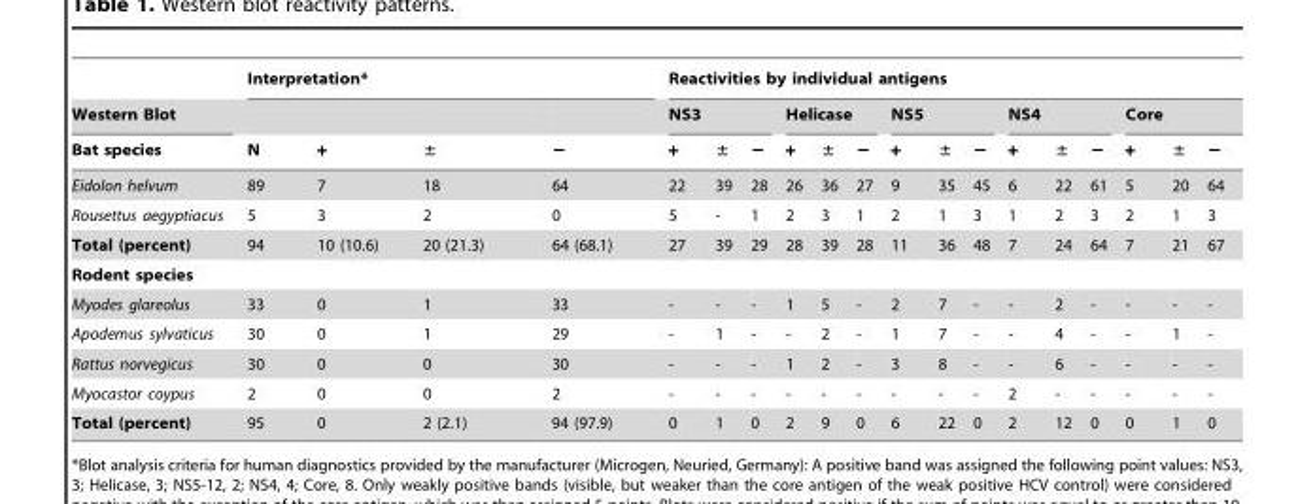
<table><thead><tr><td rowspan="3">Western Blot Bat species</td><td colspan="4">Interpretation*</td><td colspan="15">Reactivities by individual antigens</td></tr><tr><td rowspan="2">N</td><td rowspan="2">+</td><td rowspan="2">±</td><td rowspan="2">−</td><td colspan="3">NS3</td><td colspan="3">Helicase</td><td colspan="3">NS5</td><td colspan="3">NS4</td><td colspan="3">Core</td></tr><tr><td>+</td><td>±</td><td>−</td><td>+</td><td>±</td><td>−</td><td>+</td><td>±</td><td>−</td><td>+</td><td>±</td><td>−</td><td>+</td><td>±</td><td>−</td></tr></thead><tbody><tr><td>Eidolon helvum</td><td>89</td><td>7</td><td>18</td><td>64</td><td>22</td><td>39</td><td>28</td><td>26</td><td>36</td><td>27</td><td>9</td><td>35</td><td>45</td><td>6</td><td>22</td><td>61</td><td>5</td><td>20</td><td>64</td></tr><tr><td>Rousettus aegyptiacus</td><td>5</td><td>3</td><td>2</td><td>0</td><td>5</td><td>-</td><td>1</td><td>2</td><td>3</td><td>1</td><td>2</td><td>1</td><td>3</td><td>1</td><td>2</td><td>3</td><td>2</td><td>1</td><td>3</td></tr><tr><td>Total (percent)</td><td>94</td><td>10 (10.6)</td><td>20 (21.3)</td><td>64 (68.1)</td><td>27</td><td>39</td><td>29</td><td>28</td><td>39</td><td>28</td><td>11</td><td>36</td><td>48</td><td>7</td><td>24</td><td>64</td><td>7</td><td>21</td><td>67</td></tr><tr><td colspan="20">Rodent species</td></tr><tr><td>Myodes glareolus</td><td>33</td><td>0</td><td>1</td><td>33</td><td>-</td><td>-</td><td>-</td><td>1</td><td>5</td><td>-</td><td>2</td><td>7</td><td>-</td><td>-</td><td>2</td><td>-</td><td>-</td><td>-</td><td>-</td></tr><tr><td>Apodemus sylvaticus</td><td>30</td><td>0</td><td>1</td><td>29</td><td>-</td><td>1</td><td>-</td><td>-</td><td>2</td><td>-</td><td>1</td><td>7</td><td>-</td><td>-</td><td>4</td><td>-</td><td>-</td><td>1</td><td>-</td></tr><tr><td>Rattus norvegicus</td><td>30</td><td>0</td><td>0</td><td>30</td><td>-</td><td>-</td><td>-</td><td>1</td><td>2</td><td>-</td><td>3</td><td>8</td><td>-</td><td>-</td><td>6</td><td>-</td><td>-</td><td>-</td><td>-</td></tr><tr><td>Myocastor coypus</td><td>2</td><td>0</td><td>0</td><td>2</td><td>-</td><td>-</td><td>-</td><td>-</td><td>-</td><td>-</td><td>-</td><td>-</td><td>-</td><td>2</td><td>-</td><td>-</td><td>-</td><td>-</td><td>-</td></tr><tr><td>Total (percent)</td><td>95</td><td>0</td><td>2 (2.1)</td><td>94 (97.9)</td><td>0</td><td>1</td><td>0</td><td>2</td><td>9</td><td>0</td><td>6</td><td>22</td><td>0</td><td>2</td><td>12</td><td>0</td><td>0</td><td>1</td><td>0</td></tr></tbody></table>